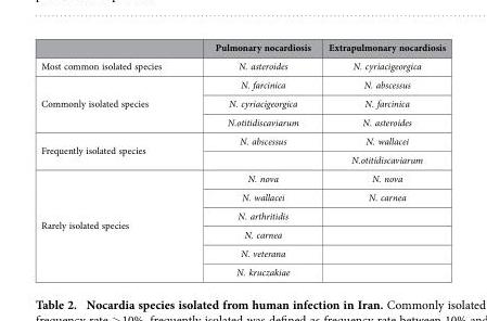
<table><thead><tr><td></td><td>Pulmonary nocardiosis</td><td>Extrapulmonary nocardiosis</td></tr></thead><tbody><tr><td>Most common isolated species</td><td>N. asteroides</td><td>N. cyriacigeorgica</td></tr><tr><td rowspan="3">Commonly isolated species</td><td>N. farcinica</td><td>N. abscessus</td></tr><tr><td>N. cyriacigeorgica</td><td>N. farcinica</td></tr><tr><td>N.otitidiscaviarum</td><td>N. asteroides</td></tr><tr><td rowspan="2">Frequently isolated species</td><td>N. abscessus</td><td>N. wallacei</td></tr><tr><td></td><td>N.otitidiscaviarum</td></tr><tr><td rowspan="6">Rarely isolated species</td><td>N. nova</td><td>N. nova</td></tr><tr><td>N. wallacei</td><td>N. carnea</td></tr><tr><td>N. arthritidis</td><td></td></tr><tr><td>N. carnea</td><td></td></tr><tr><td>N. veterana</td><td></td></tr><tr><td>N. kruczakiae</td><td></td></tr></tbody></table>